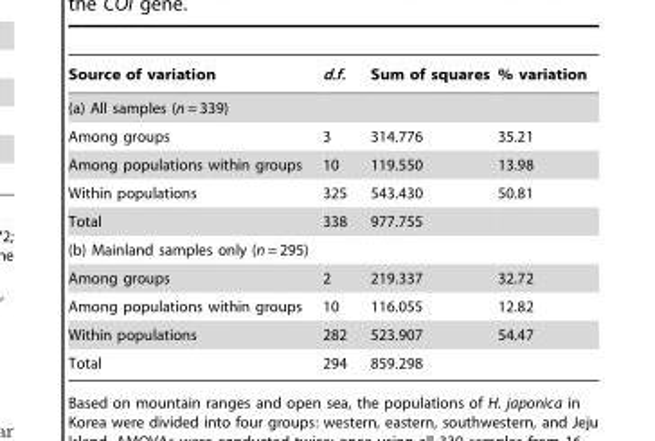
<table><thead><tr><td>Source of variation</td><td>d.f.</td><td>Sum of squares</td><td>% variation</td></tr></thead><tbody><tr><td colspan="4">(a) All samples (n = 339)</td></tr><tr><td>Among groups</td><td>3</td><td>314.776</td><td>35.21</td></tr><tr><td>Among populations within groups</td><td>10</td><td>119.550</td><td>13.98</td></tr><tr><td>Within populations</td><td>325</td><td>543.430</td><td>50.81</td></tr><tr><td>Total</td><td>338</td><td>977.755</td><td></td></tr><tr><td colspan="4">(b) Mainland samples only (n = 295)</td></tr><tr><td>Among groups</td><td>2</td><td>219.337</td><td>32.72</td></tr><tr><td>Among populations within groups</td><td>10</td><td>116.055</td><td>12.82</td></tr><tr><td>Within populations</td><td>282</td><td>523.907</td><td>54.47</td></tr><tr><td>Total</td><td>294</td><td>859.298</td><td></td></tr></tbody></table>